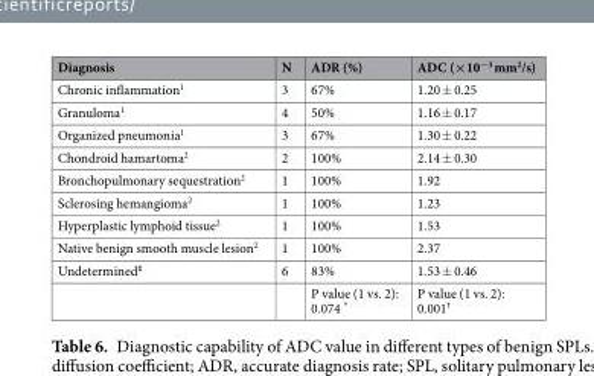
<table><thead><tr><td>Diagnosis</td><td>N</td><td>ADR (%)</td><td>ADC (×10<sup>−3</sup> mm<sup>2</sup>/s)</td></tr></thead><tbody><tr><td>Chronic inflammation<sup>1</sup></td><td>3</td><td>67%</td><td>1.20 ± 0.25</td></tr><tr><td>Granuloma<sup>1</sup></td><td>4</td><td>50%</td><td>1.16 ± 0.17</td></tr><tr><td>Organized pneumonia<sup>1</sup></td><td>3</td><td>67%</td><td>1.30 ± 0.22</td></tr><tr><td>Chondroid hamartoma<sup>2</sup></td><td>2</td><td>100%</td><td>2.14 ± 0.30</td></tr><tr><td>Bronchopulmonary sequestration<sup>2</sup></td><td>1</td><td>100%</td><td>1.92</td></tr><tr><td>Sclerosing hemangioma<sup>2</sup></td><td>1</td><td>100%</td><td>1.23</td></tr><tr><td>Hyperplastic lymphoid tissue<sup>2</sup></td><td>1</td><td>100%</td><td>1.53</td></tr><tr><td>Native benign smooth muscle lesion<sup>2</sup></td><td>1</td><td>100%</td><td>2.37</td></tr><tr><td rowspan="2">Undetermined<sup>‡</sup></td><td>6</td><td>83%</td><td>1.53 ± 0.46</td></tr><tr><td></td><td>P value (1 vs. 2): 0.074 *</td><td>P value (1 vs. 2): 0.001<sup>†</sup></td></tr></tbody></table>